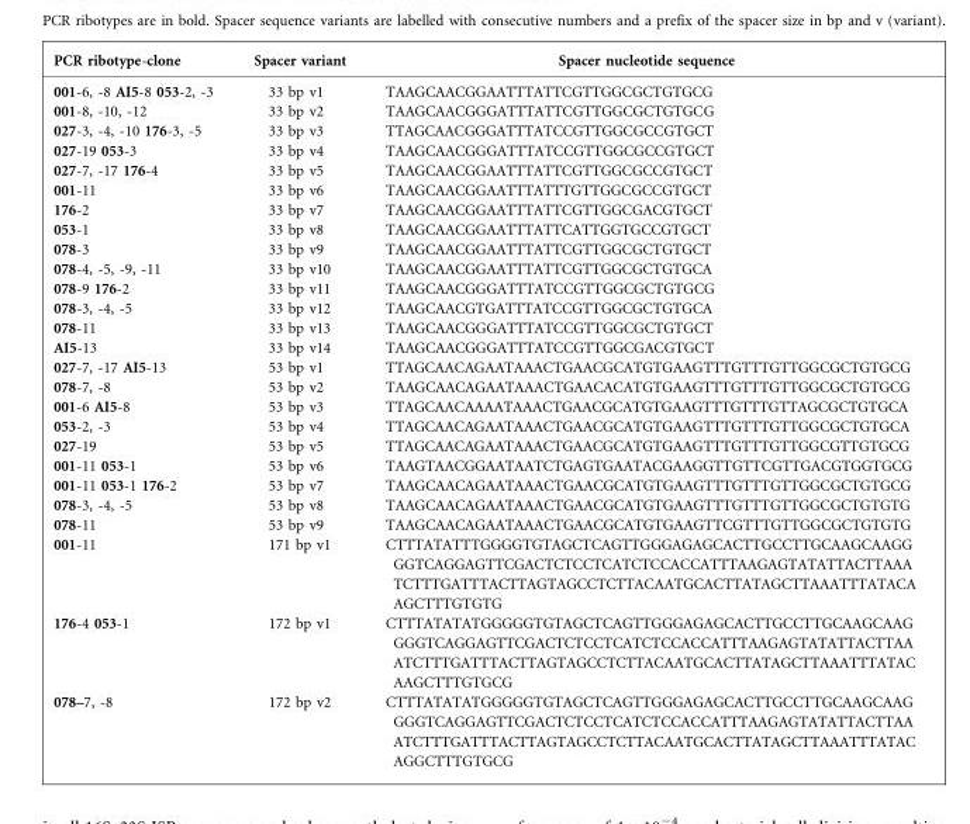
<table><thead><tr><td>PCR ribotype-clone</td><td>Spacer variant</td><td>Spacer nucleotide sequence</td></tr></thead><tbody><tr><td>001-6, -8 AI5-8 053-2, -3</td><td>33 bp v1</td><td>TAAGCAACGGAATTTATTCGTTGGCGCTGTGCG</td></tr><tr><td>001-8, -10, -12</td><td>33 bp v2</td><td>TAAGCAACGGGATTTATTCGTTGGCGCTGTGCG</td></tr><tr><td>027-3, -4, -10 176-3, -5</td><td>33 bp v3</td><td>TTAGCAACGGGATTTATCCGTTGGCGCCGTGCT</td></tr><tr><td>027-19 053-3</td><td>33 bp v4</td><td>TAAGCAACGGGATTTATCCGTTGGCGCCGTGCT</td></tr><tr><td>027-7, -17 176-4</td><td>33 bp v5</td><td>TAAGCAACGGAATTTATTCGTTGGCGCCGTGCT</td></tr><tr><td>001-11</td><td>33 bp v6</td><td>TAAGCAACGGAATTTATTTGTTGGCGCCGTGCT</td></tr><tr><td>176-2</td><td>33 bp v7</td><td>TAAGCAACGGAATTTATTCGTTGGCGACGTGCT</td></tr><tr><td>053-1</td><td>33 bp v8</td><td>TAAGCAACGGAATTTATTCATTGGTGCCGTGCT</td></tr><tr><td>078-3</td><td>33 bp v9</td><td>TAAGCAACGGAATTTATTCGTTGGCGCTGTGCT</td></tr><tr><td>078-4, -5, -9, -11</td><td>33 bp v10</td><td>TAAGCAACGGAATTTATTCGTTGGCGCTGTGCA</td></tr><tr><td>078-9 176-2</td><td>33 bp v11</td><td>TAAGCAACGGGATTTATCCGTTGGCGCTGTGCG</td></tr><tr><td>078-3, -4, -5</td><td>33 bp v12</td><td>TAAGCAACGTGATTTATCCGTTGGCGCTGTGCA</td></tr><tr><td>078-11</td><td>33 bp v13</td><td>TAAGCAACGGGATTTATCCGTTGGCGCTGTGCT</td></tr><tr><td>AI5-13</td><td>33 bp v14</td><td>TAAGCAACGGGATTTATCCGTTGGCGACGTGCT</td></tr><tr><td>027-7, -17 AI5-13</td><td>53 bp v1</td><td>TTAGCAACAGAATAAACTGAACGCATGTGAAGTTTGTTTGTTGGCGCTGTGCG</td></tr><tr><td>078-7, -8</td><td>53 bp v2</td><td>TAAGCAACAGAATAAACTGAACACATGTGAAGTTTGTTTGTTGGCGCTGTGCG</td></tr><tr><td>001-6 AI5-8</td><td>53 bp v3</td><td>TTAGCAACAAAATAAACTGAACGCATGTGAAGTTTGTTTGTTAGCGCTGTGCA</td></tr><tr><td>053-2, -3</td><td>53 bp v4</td><td>TTAGCAACAGAATAAACTGAACGCATGTGAAGTTTGTTTGTTGGCGCTGTGCA</td></tr><tr><td>027-19</td><td>53 bp v5</td><td>TTAGCAACAGAATAAACTGAACGCATGTGAAGTTTGTTTGTTGGCGTTGTGCG</td></tr><tr><td>001-11 053-1</td><td>53 bp v6</td><td>TAAGTAACGGAATAATCTGAGTGAATACGAAGGTTGTTCGTTGACGTGGTGCG</td></tr><tr><td>001-11 053-1 176-2</td><td>53 bp v7</td><td>TAAGCAACAGAATAAACTGAACGCATGTGAAGTTTGTTTGTTGGCGCTGTGCG</td></tr><tr><td>078-3, -4, -5</td><td>53 bp v8</td><td>TAAGCAACAGAATAAACTGAACGCATGTGAAGTTTGTTTGTTGGCGCTGTGTG</td></tr><tr><td>078-11</td><td>53 bp v9</td><td>TAAGCAACAGAATAAACTGAACGCATGTGAAGTTCGTTTGTTGGCGCTGTGTG</td></tr><tr><td>001-11</td><td>171 bp v1</td><td>CTTTATATTTGGGGTGTAGCTCAGTTGGGAGAGCACTTGCCTTGCAAGCAAGG GGTCAGGAGTTCGACTCTCCTCATCTCCACCATTTAAGAGTATATTACTTAAA TCTTTGATTTACTTAGTAGCCTCTTACAATGCACTTATAGCTTAAATTTATACA AGCTTTGTGTG</td></tr><tr><td>176-4 053-1</td><td>172 bp v1</td><td>CTTTATATATGGGGGTGTAGCTCAGTTGGGAGAGCACTTGCCTTGCAAGCAAG GGGTCAGGAGTTCGACTCTCCTCATCTCCACCATTTAAGAGTATATTACTTAA ATCTTTGATTTACTTAGTAGCCTCTTACAATGCACTTATAGCTTAAATTTATAC AAGCTTTGTGCG</td></tr><tr><td>078–7, -8</td><td>172 bp v2</td><td>CTTTATATATGGGGGTGTAGCTCAGTTGGGAGAGCACTTGCCTTGCAAGCAAG GGGTCAGGAGTTCGACTCTCCTCATCTCCACCATTTAAGAGTATATTACTTAA ATCTTTGATTTACTTAGTAGCCTCTTACAATGCACTTATAGCTTAAATTTATAC AGGCTTTGTGCG</td></tr></tbody></table>